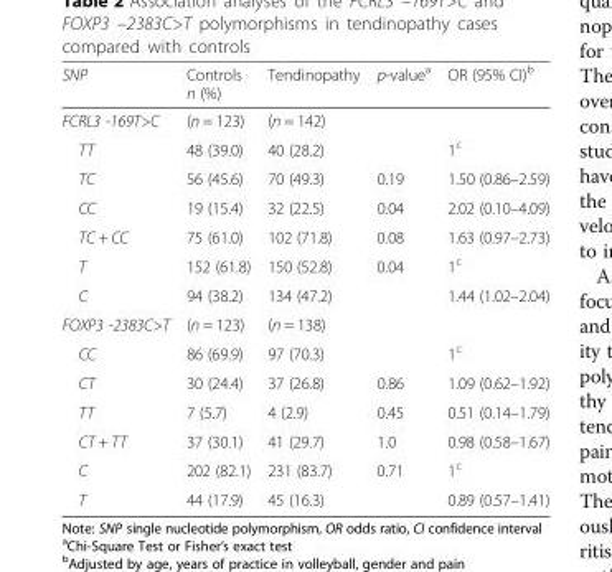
<table><thead><tr><td>SNP</td><td>Controls n (%)</td><td>Tendinopathy</td><td>p-value<sup>a</sup></td><td>OR (95% CI)<sup>b</sup></td></tr></thead><tbody><tr><td>FCRL3 -169T&gt;C</td><td>(n = 123)</td><td>(n = 142)</td><td></td><td></td></tr><tr><td>TT</td><td>48 (39.0)</td><td>40 (28.2)</td><td></td><td>1<sup>c</sup></td></tr><tr><td>TC</td><td>56 (45.6)</td><td>70 (49.3)</td><td>0.19</td><td>1.50 (0.86–2.59)</td></tr><tr><td>CC</td><td>19 (15.4)</td><td>32 (22.5)</td><td>0.04</td><td>2.02 (0.10–4.09)</td></tr><tr><td>TC + CC</td><td>75 (61.0)</td><td>102 (71.8)</td><td>0.08</td><td>1.63 (0.97–2.73)</td></tr><tr><td>T</td><td>152 (61.8)</td><td>150 (52.8)</td><td rowspan="2">0.04</td><td>1<sup>c</sup></td></tr><tr><td>C</td><td>94 (38.2)</td><td>134 (47.2)</td><td>1.44 (1.02–2.04)</td></tr><tr><td>FOXP3 -2383C&gt;T</td><td>(n = 123)</td><td>(n = 138)</td><td></td><td></td></tr><tr><td>CC</td><td>86 (69.9)</td><td>97 (70.3)</td><td></td><td>1<sup>c</sup></td></tr><tr><td>CT</td><td>30 (24.4)</td><td>37 (26.8)</td><td>0.86</td><td>1.09 (0.62–1.92)</td></tr><tr><td>TT</td><td>7 (5.7)</td><td>4 (2.9)</td><td>0.45</td><td>0.51 (0.14–1.79)</td></tr><tr><td>CT + TT</td><td>37 (30.1)</td><td>41 (29.7)</td><td>1.0</td><td>0.98 (0.58–1.67)</td></tr><tr><td>C</td><td>202 (82.1)</td><td>231 (83.7)</td><td rowspan="2">0.71</td><td>1<sup>c</sup></td></tr><tr><td>T</td><td>44 (17.9)</td><td>45 (16.3)</td><td>0.89 (0.57–1.41)</td></tr></tbody></table>